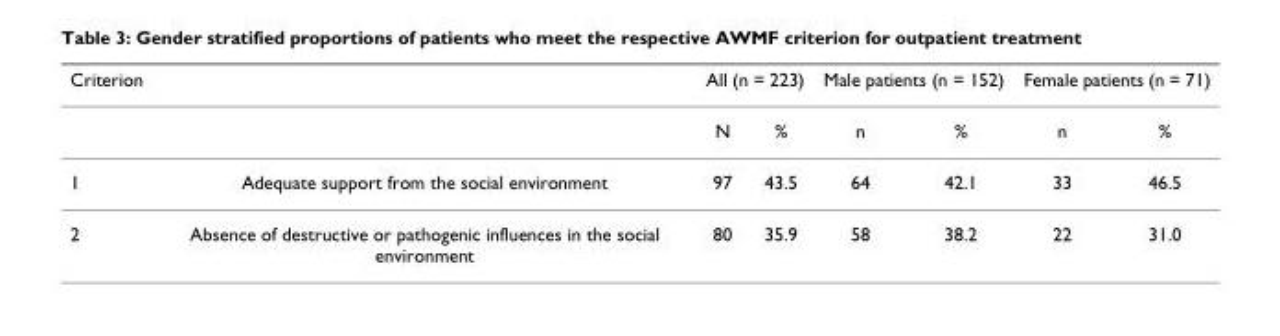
<table><thead><tr><td rowspan="2">Criterion</td><td rowspan="2"></td><td colspan="2">All (n = 223)</td><td colspan="2">Male patients (n = 152)</td><td colspan="2">Female patients (n = 71)</td></tr><tr><td>N</td><td>%</td><td>n</td><td>%</td><td>n</td><td>%</td></tr></thead><tbody><tr><td>1</td><td>Adequate support from the social environment</td><td>97</td><td>43.5</td><td>64</td><td>42.1</td><td>33</td><td>46.5</td></tr><tr><td>2</td><td>Absence of destructive or pathogenic influences in the social environment</td><td>80</td><td>35.9</td><td>58</td><td>38.2</td><td>22</td><td>31.0</td></tr></tbody></table>